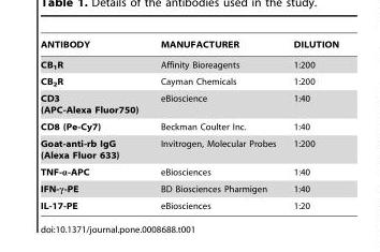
<table><thead><tr><td>ANTIBODY</td><td>MANUFACTURER</td><td>DILUTION</td></tr></thead><tbody><tr><td>CB<sub>1</sub>R</td><td>Affinity Bioreagents</td><td>1:200</td></tr><tr><td>CB<sub>2</sub>R</td><td>Cayman Chemicals</td><td>1:200</td></tr><tr><td>CD3 (APC-Alexa Fluor750)</td><td>eBioscience</td><td>1:40</td></tr><tr><td>CD8 (Pe-Cy7)</td><td>Beckman Coulter Inc.</td><td>1:40</td></tr><tr><td>Goat-anti-rb IgG (Alexa Fluor 633)</td><td>Invitrogen, Molecular Probes</td><td>1:200</td></tr><tr><td>TNF-α-APC</td><td>eBiosciences</td><td>1:40</td></tr><tr><td>IFN-γ-PE</td><td>BD Biosciences Pharmigen</td><td>1:40</td></tr><tr><td>IL-17-PE</td><td>eBiosciences</td><td>1:20</td></tr></tbody></table>